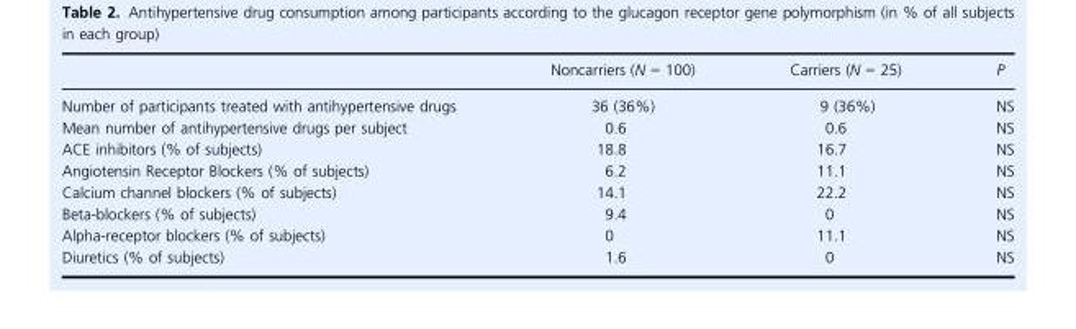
<table><thead><tr><td></td><td>Noncarriers (N = 100)</td><td>Carriers (N = 25)</td><td>P</td></tr></thead><tbody><tr><td>Number of participants treated with antihypertensive drugs</td><td>36 (36%)</td><td>9 (36%)</td><td>NS</td></tr><tr><td>Mean number of antihypertensive drugs per subject</td><td>0.6</td><td>0.6</td><td>NS</td></tr><tr><td>ACE inhibitors (% of subjects)</td><td>18.8</td><td>16.7</td><td>NS</td></tr><tr><td>Angiotensin Receptor Blockers (% of subjects)</td><td>6.2</td><td>11.1</td><td>NS</td></tr><tr><td>Calcium channel blockers (% of subjects)</td><td>14.1</td><td>22.2</td><td>NS</td></tr><tr><td>Beta-blockers (% of subjects)</td><td>9.4</td><td>0</td><td>NS</td></tr><tr><td>Alpha-receptor blockers (% of subjects)</td><td>0</td><td>11.1</td><td>NS</td></tr><tr><td>Diuretics (% of subjects)</td><td>1.6</td><td>0</td><td>NS</td></tr></tbody></table>